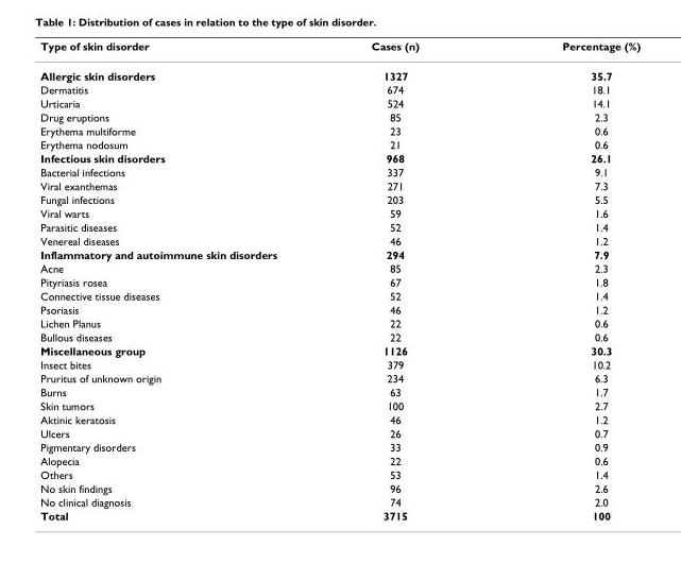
<table><thead><tr><td>Type of skin disorder</td><td>Cases (n)</td><td>Percentage (%)</td></tr></thead><tbody><tr><td>Allergic skin disorders</td><td>1327</td><td>35.7</td></tr><tr><td>Dermatitis</td><td>674</td><td>18.1</td></tr><tr><td>Urticaria</td><td>524</td><td>14.1</td></tr><tr><td>Drug eruptions</td><td>85</td><td>2.3</td></tr><tr><td>Erythema multiforme</td><td>23</td><td>0.6</td></tr><tr><td>Erythema nodosum</td><td>21</td><td>0.6</td></tr><tr><td>Infectious skin disorders</td><td>968</td><td>26.1</td></tr><tr><td>Bacterial infections</td><td>337</td><td>9.1</td></tr><tr><td>Viral exanthemas</td><td>271</td><td>7.3</td></tr><tr><td>Fungal infections</td><td>203</td><td>5.5</td></tr><tr><td>Viral warts</td><td>59</td><td>1.6</td></tr><tr><td>Parasitic diseases</td><td>52</td><td>1.4</td></tr><tr><td>Venereal diseases</td><td>46</td><td>1.2</td></tr><tr><td>Inflammatory and autoimmune skin disorders</td><td>294</td><td>7.9</td></tr><tr><td>Acne</td><td>85</td><td>2.3</td></tr><tr><td>Pityriasis rosea</td><td>67</td><td>1.8</td></tr><tr><td>Connective tissue diseases</td><td>52</td><td>1.4</td></tr><tr><td>Psoriasis</td><td>46</td><td>1.2</td></tr><tr><td>Lichen Planus</td><td>22</td><td>0.6</td></tr><tr><td>Bullous diseases</td><td>22</td><td>0.6</td></tr><tr><td>Miscellaneous group</td><td>1126</td><td>30.3</td></tr><tr><td>Insect bites</td><td>379</td><td>10.2</td></tr><tr><td>Pruritus of unknown origin</td><td>234</td><td>6.3</td></tr><tr><td>Burns</td><td>63</td><td>1.7</td></tr><tr><td>Skin tumors</td><td>100</td><td>2.7</td></tr><tr><td>Aktinic keratosis</td><td>46</td><td>1.2</td></tr><tr><td>Ulcers</td><td>26</td><td>0.7</td></tr><tr><td>Pigmentary disorders</td><td>33</td><td>0.9</td></tr><tr><td>Alopecia</td><td>22</td><td>0.6</td></tr><tr><td>Others</td><td>53</td><td>1.4</td></tr><tr><td>No skin findings</td><td>96</td><td>2.6</td></tr><tr><td>No clinical diagnosis</td><td>74</td><td>2.0</td></tr><tr><td>Total</td><td>3715</td><td>100</td></tr></tbody></table>